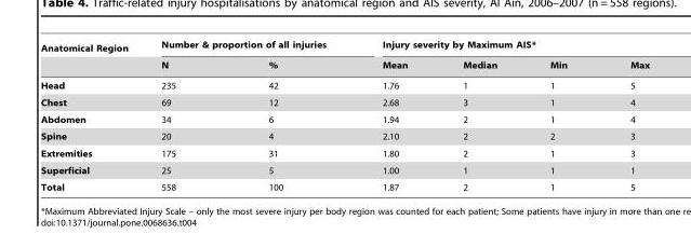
<table><thead><tr><td rowspan="2">Anatomical Region</td><td colspan="2">Number &amp; proportion of all injuries</td><td colspan="4">Injury severity by Maximum AIS*</td></tr><tr><td>N</td><td>%</td><td>Mean</td><td>Median</td><td>Min</td><td>Max</td></tr></thead><tbody><tr><td>Head</td><td>235</td><td>42</td><td>1.76</td><td>1</td><td>1</td><td>5</td></tr><tr><td>Chest</td><td>69</td><td>12</td><td>2.68</td><td>3</td><td>1</td><td>4</td></tr><tr><td>Abdomen</td><td>34</td><td>6</td><td>1.94</td><td>2</td><td>1</td><td>4</td></tr><tr><td>Spine</td><td>20</td><td>4</td><td>2.10</td><td>2</td><td>2</td><td>3</td></tr><tr><td>Extremities</td><td>175</td><td>31</td><td>1.80</td><td>2</td><td>1</td><td>3</td></tr><tr><td>Superficial</td><td>25</td><td>5</td><td>1.00</td><td>1</td><td>1</td><td>1</td></tr><tr><td>Total</td><td>558</td><td>100</td><td>1.87</td><td>2</td><td>1</td><td>5</td></tr></tbody></table>